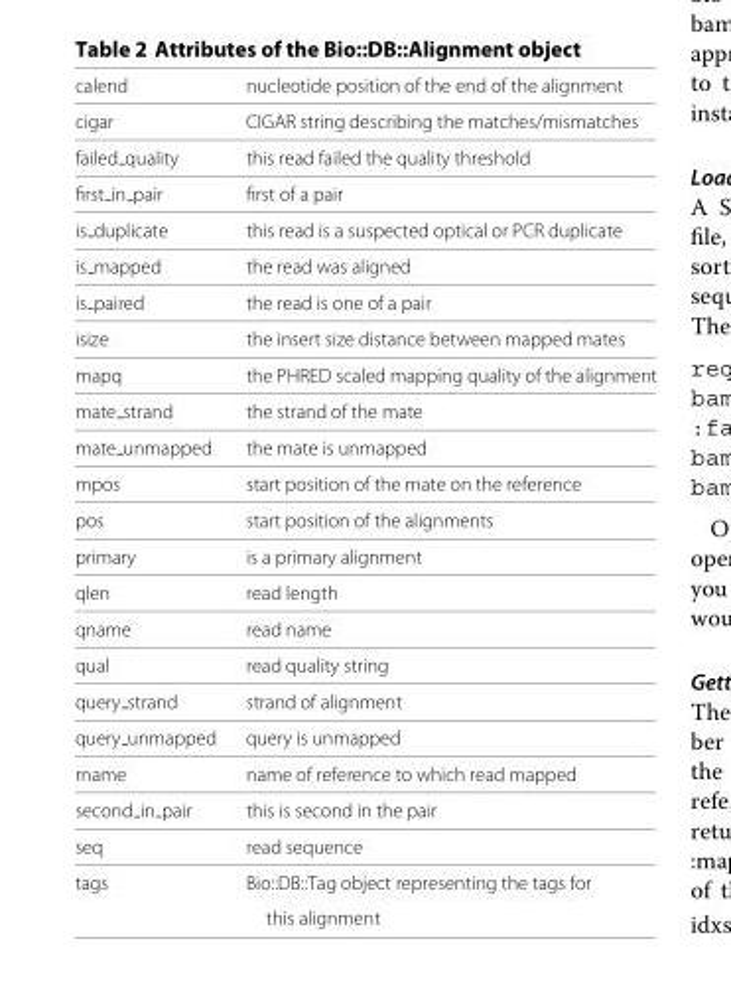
<table><thead><tr><td>calend</td><td>nucleotide position of the end of the alignment</td></tr></thead><tbody><tr><td>cigar</td><td>CIGAR string describing the matches/mismatches</td></tr><tr><td>failed quality</td><td>this read failed the quality threshold</td></tr><tr><td>first <sub>in</sub> pair</td><td>first of a pair</td></tr><tr><td>is duplicate</td><td>this read is a suspected optical or PCR duplicate</td></tr><tr><td>is mapped</td><td>the read was aligned</td></tr><tr><td>is paired</td><td>the read is one of a pair</td></tr><tr><td>isize</td><td>the insert size distance between mapped mates</td></tr><tr><td>mapq</td><td>the PHRED scaled mapping quality of the alignment</td></tr><tr><td>mate strand</td><td>the strand of the mate</td></tr><tr><td>mate unmapped</td><td>the mate is unmapped</td></tr><tr><td>mpos</td><td>start position of the mate on the reference</td></tr><tr><td>pos</td><td>start position of the alignments</td></tr><tr><td>primary</td><td>is a primary alignment</td></tr><tr><td>qlen</td><td>read length</td></tr><tr><td>qname</td><td>read name</td></tr><tr><td>qual</td><td>read quality string</td></tr><tr><td>query strand</td><td>strand of alignment</td></tr><tr><td>query unmapped</td><td>query is unmapped</td></tr><tr><td>rname</td><td>name of reference to which read mapped</td></tr><tr><td>second <sub>in</sub> pair</td><td>this is second in the pair</td></tr><tr><td>seq</td><td>read sequence</td></tr><tr><td>tags</td><td>Bio::DB::Tag object representing the tags for this alignment</td></tr></tbody></table>